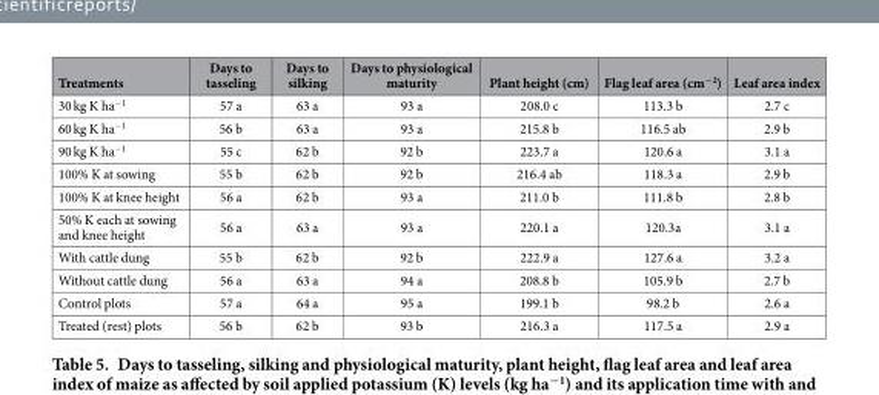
<table><thead><tr><td>Treatments</td><td>Days to tasseling</td><td>Days to silking</td><td>Days to physiological maturity</td><td>Plant height (cm)</td><td>Flag leaf area (cm<sup>−2</sup>)</td><td>Leaf area index</td></tr></thead><tbody><tr><td>30 kg K ha<sup>−1</sup></td><td>57 a</td><td>63 a</td><td>93 a</td><td>208.0 c</td><td>113.3 b</td><td>2.7 c</td></tr><tr><td>60 kg K ha<sup>−1</sup></td><td>56 b</td><td>63 a</td><td>93 a</td><td>215.8 b</td><td>116.5 ab</td><td>2.9 b</td></tr><tr><td>90 kg K ha<sup>−1</sup></td><td>55 c</td><td>62 b</td><td>92 b</td><td>223.7 a</td><td>120.6 a</td><td>3.1 a</td></tr><tr><td>100% K at sowing</td><td>55 b</td><td>62 b</td><td>92 b</td><td>216.4 ab</td><td>118.3 a</td><td>2.9 b</td></tr><tr><td>100% K at knee height</td><td>56 a</td><td>62 b</td><td>93 a</td><td>211.0 b</td><td>111.8 b</td><td>2.8 b</td></tr><tr><td>50% K each at sowing and knee height</td><td>56 a</td><td>63 a</td><td>93 a</td><td>220.1 a</td><td>120.3a</td><td>3.1 a</td></tr><tr><td>With cattle dung</td><td>55 b</td><td>62 b</td><td>92 b</td><td>222.9 a</td><td>127.6 a</td><td>3.2 a</td></tr><tr><td>Without cattle dung</td><td>56 a</td><td>63 a</td><td>94 a</td><td>208.8 b</td><td>105.9 b</td><td>2.7 b</td></tr><tr><td>Control plots</td><td>57 a</td><td>64 a</td><td>95 a</td><td>199.1 b</td><td>98.2 b</td><td>2.6 a</td></tr><tr><td>Treated (rest) plots</td><td>56 b</td><td>62 b</td><td>93 b</td><td>216.3 a</td><td>117.5 a</td><td>2.9 a</td></tr></tbody></table>